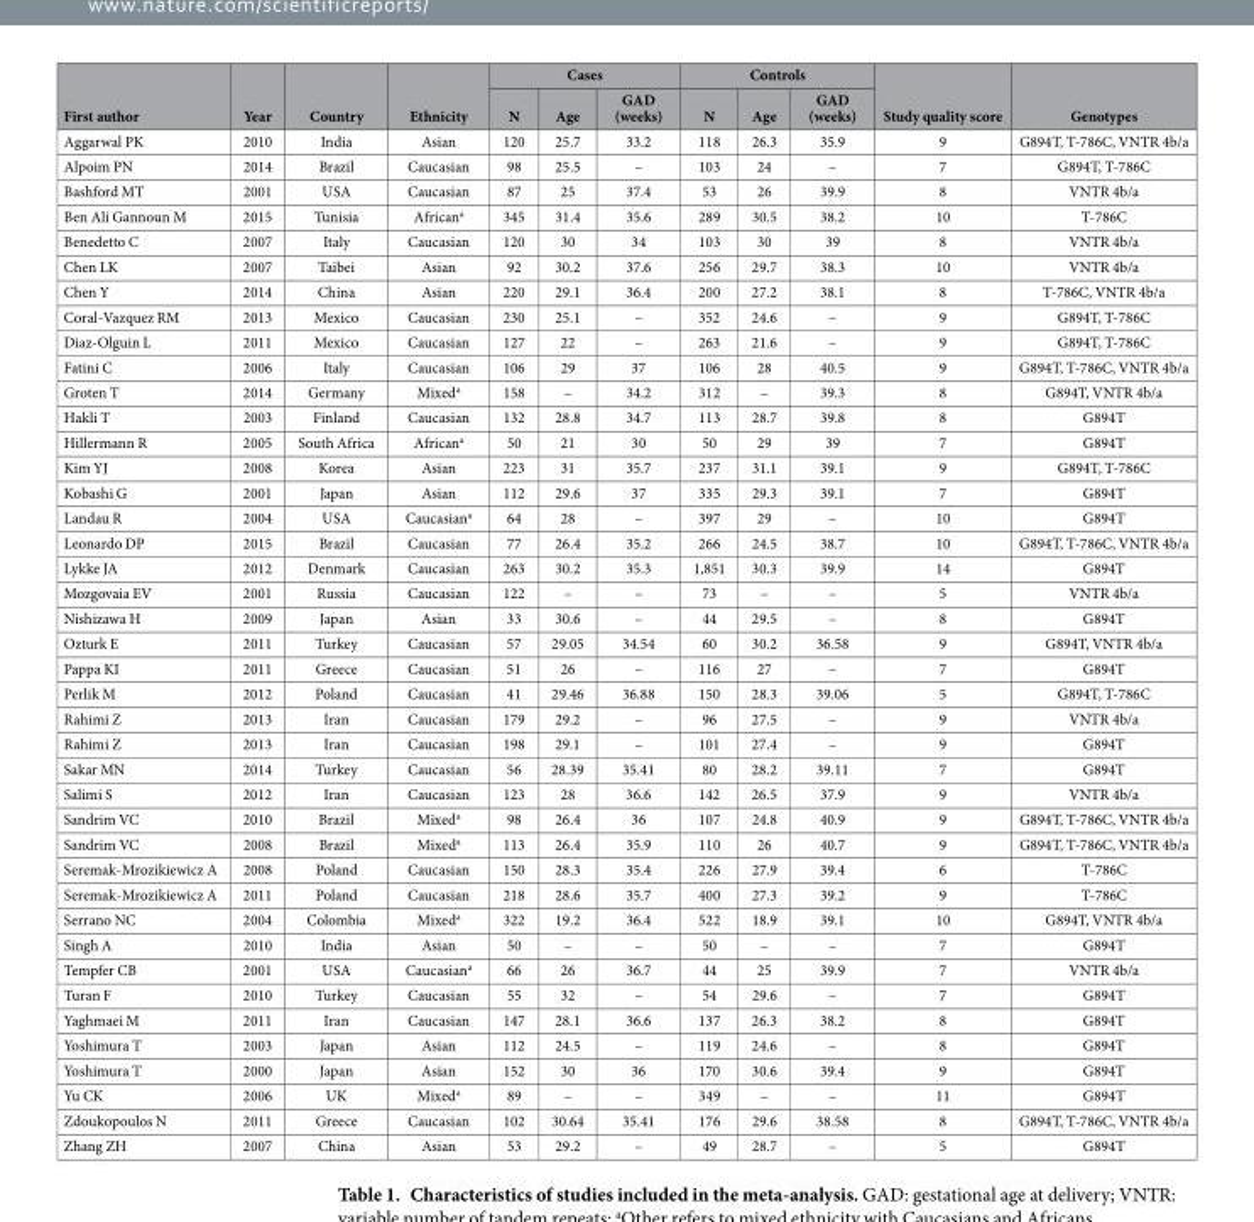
<table><thead><tr><td rowspan="2">First author</td><td rowspan="2">Year</td><td rowspan="2">Country</td><td rowspan="2">Ethnicity</td><td colspan="3">Cases</td><td colspan="3">Controls</td><td rowspan="2">Study quality score</td><td rowspan="2">Genotypes</td></tr><tr><td>N</td><td>Age</td><td>GAD (weeks)</td><td>N</td><td>Age</td><td>GAD (weeks)</td></tr></thead><tbody><tr><td>Aggarwal PK</td><td>2010</td><td>India</td><td>Asian</td><td>120</td><td>25.7</td><td>33.2</td><td>118</td><td>26.3</td><td>35.9</td><td>9</td><td>G894T, T-786C, VNTR 4b/a</td></tr><tr><td>Alpoim PN</td><td>2014</td><td>Brazil</td><td>Caucasian</td><td>98</td><td>25.5</td><td>–</td><td>103</td><td>24</td><td>–</td><td>7</td><td>G894T, T-786C</td></tr><tr><td>Bashford MT</td><td>2001</td><td>USA</td><td>Caucasian</td><td>87</td><td>25</td><td>37.4</td><td>53</td><td>26</td><td>39.9</td><td>8</td><td>VNTR 4b/a</td></tr><tr><td>Ben Ali Gannoun M</td><td>2015</td><td>Tunisia</td><td>African<sup>a</sup></td><td>345</td><td>31.4</td><td>35.6</td><td>289</td><td>30.5</td><td>38.2</td><td>10</td><td>T-786C</td></tr><tr><td>Benedetto C</td><td>2007</td><td>Italy</td><td>Caucasian</td><td>120</td><td>30</td><td>34</td><td>103</td><td>30</td><td>39</td><td>8</td><td>VNTR 4b/a</td></tr><tr><td>Chen LK</td><td>2007</td><td>Taibei</td><td>Asian</td><td>92</td><td>30.2</td><td>37.6</td><td>256</td><td>29.7</td><td>38.3</td><td>10</td><td>VNTR 4b/a</td></tr><tr><td>Chen Y</td><td>2014</td><td>China</td><td>Asian</td><td>220</td><td>29.1</td><td>36.4</td><td>200</td><td>27.2</td><td>38.1</td><td>8</td><td>T-786C, VNTR 4b/a</td></tr><tr><td>Coral-Vazquez RM</td><td>2013</td><td>Mexico</td><td>Caucasian</td><td>230</td><td>25.1</td><td>–</td><td>352</td><td>24.6</td><td>–</td><td>9</td><td>G894T, T-786C</td></tr><tr><td>Diaz-Olguin L</td><td>2011</td><td>Mexico</td><td>Caucasian</td><td>127</td><td>22</td><td>–</td><td>263</td><td>21.6</td><td>–</td><td>9</td><td>G894T, T-786C</td></tr><tr><td>Fatini C</td><td>2006</td><td>Italy</td><td>Caucasian</td><td>106</td><td>29</td><td>37</td><td>106</td><td>28</td><td>40.5</td><td>9</td><td>G894T, T-786C, VNTR 4b/a</td></tr><tr><td>Groten T</td><td>2014</td><td>Germany</td><td>Mixed<sup>a</sup></td><td>158</td><td>–</td><td>34.2</td><td>312</td><td>–</td><td>39.3</td><td>8</td><td>G894T, VNTR 4b/a</td></tr><tr><td>Hakli T</td><td>2003</td><td>Finland</td><td>Caucasian</td><td>132</td><td>28.8</td><td>34.7</td><td>113</td><td>28.7</td><td>39.8</td><td>8</td><td>G894T</td></tr><tr><td>Hillermann R</td><td>2005</td><td>South Africa</td><td>African<sup>a</sup></td><td>50</td><td>21</td><td>30</td><td>50</td><td>29</td><td>39</td><td>7</td><td>G894T</td></tr><tr><td>Kim YJ</td><td>2008</td><td>Korea</td><td>Asian</td><td>223</td><td>31</td><td>35.7</td><td>237</td><td>31.1</td><td>39.1</td><td>9</td><td>G894T, T-786C</td></tr><tr><td>Kobashi G</td><td>2001</td><td>Japan</td><td>Asian</td><td>112</td><td>29.6</td><td>37</td><td>335</td><td>29.3</td><td>39.1</td><td>7</td><td>G894T</td></tr><tr><td>Landau R</td><td>2004</td><td>USA</td><td>Caucasian<sup>a</sup></td><td>64</td><td>28</td><td>–</td><td>397</td><td>29</td><td>–</td><td>10</td><td>G894T</td></tr><tr><td>Leonardo DP</td><td>2015</td><td>Brazil</td><td>Caucasian</td><td>77</td><td>26.4</td><td>35.2</td><td>266</td><td>24.5</td><td>38.7</td><td>10</td><td>G894T, T-786C, VNTR 4b/a</td></tr><tr><td>Lykke JA</td><td>2012</td><td>Denmark</td><td>Caucasian</td><td>263</td><td>30.2</td><td>35.3</td><td>1,851</td><td>30.3</td><td>39.9</td><td>14</td><td>G894T</td></tr><tr><td>Mozgovaia EV</td><td>2001</td><td>Russia</td><td>Caucasian</td><td>122</td><td>–</td><td>–</td><td>73</td><td>–</td><td>–</td><td>5</td><td>VNTR 4b/a</td></tr><tr><td>Nishizawa H</td><td>2009</td><td>Japan</td><td>Asian</td><td>33</td><td>30.6</td><td>–</td><td>44</td><td>29.5</td><td>–</td><td>8</td><td>G894T</td></tr><tr><td>Ozturk E</td><td>2011</td><td>Turkey</td><td>Caucasian</td><td>57</td><td>29.05</td><td>34.54</td><td>60</td><td>30.2</td><td>36.58</td><td>9</td><td>G894T, VNTR 4b/a</td></tr><tr><td>Pappa KI</td><td>2011</td><td>Greece</td><td>Caucasian</td><td>51</td><td>26</td><td>–</td><td>116</td><td>27</td><td>–</td><td>7</td><td>G894T</td></tr><tr><td>Perlik M</td><td>2012</td><td>Poland</td><td>Caucasian</td><td>41</td><td>29.46</td><td>36.88</td><td>150</td><td>28.3</td><td>39.06</td><td>5</td><td>G894T, T-786C</td></tr><tr><td>Rahimi Z</td><td>2013</td><td>Iran</td><td>Caucasian</td><td>179</td><td>29.2</td><td>–</td><td>96</td><td>27.5</td><td>–</td><td>9</td><td>VNTR 4b/a</td></tr><tr><td>Rahimi Z</td><td>2013</td><td>Iran</td><td>Caucasian</td><td>198</td><td>29.1</td><td>–</td><td>101</td><td>27.4</td><td>–</td><td>9</td><td>G894T</td></tr><tr><td>Sakar MN</td><td>2014</td><td>Turkey</td><td>Caucasian</td><td>56</td><td>28.39</td><td>35.41</td><td>80</td><td>28.2</td><td>39.11</td><td>7</td><td>G894T</td></tr><tr><td>Salimi S</td><td>2012</td><td>Iran</td><td>Caucasian</td><td>123</td><td>28</td><td>36.6</td><td>142</td><td>26.5</td><td>37.9</td><td>9</td><td>VNTR 4b/a</td></tr><tr><td>Sandrim VC</td><td>2010</td><td>Brazil</td><td>Mixed<sup>a</sup></td><td>98</td><td>26.4</td><td>36</td><td>107</td><td>24.8</td><td>40.9</td><td>9</td><td>G894T, T-786C, VNTR 4b/a</td></tr><tr><td>Sandrim VC</td><td>2008</td><td>Brazil</td><td>Mixed<sup>a</sup></td><td>113</td><td>26.4</td><td>35.9</td><td>110</td><td>26</td><td>40.7</td><td>9</td><td>G894T, T-786C, VNTR 4b/a</td></tr><tr><td>Seremak-Mrozikiewicz A</td><td>2008</td><td>Poland</td><td>Caucasian</td><td>150</td><td>28.3</td><td>35.4</td><td>226</td><td>27.9</td><td>39.4</td><td>6</td><td>T-786C</td></tr><tr><td>Seremak-Mrozikiewicz A</td><td>2011</td><td>Poland</td><td>Caucasian</td><td>218</td><td>28.6</td><td>35.7</td><td>400</td><td>27.3</td><td>39.2</td><td>9</td><td>T-786C</td></tr><tr><td>Serrano NC</td><td>2004</td><td>Colombia</td><td>Mixed<sup>a</sup></td><td>322</td><td>19.2</td><td>36.4</td><td>522</td><td>18.9</td><td>39.1</td><td>10</td><td>G894T, VNTR 4b/a</td></tr><tr><td>Singh A</td><td>2010</td><td>India</td><td>Asian</td><td>50</td><td>–</td><td>–</td><td>50</td><td>–</td><td>–</td><td>7</td><td>G894T</td></tr><tr><td>Tempfer CB</td><td>2001</td><td>USA</td><td>Caucasian<sup>a</sup></td><td>66</td><td>26</td><td>36.7</td><td>44</td><td>25</td><td>39.9</td><td>7</td><td>VNTR 4b/a</td></tr><tr><td>Turan F</td><td>2010</td><td>Turkey</td><td>Caucasian</td><td>55</td><td>32</td><td>–</td><td>54</td><td>29.6</td><td>–</td><td>7</td><td>G894T</td></tr><tr><td>Yaghmaei M</td><td>2011</td><td>Iran</td><td>Caucasian</td><td>147</td><td>28.1</td><td>36.6</td><td>137</td><td>26.3</td><td>38.2</td><td>8</td><td>G894T</td></tr><tr><td>Yoshimura T</td><td>2003</td><td>Japan</td><td>Asian</td><td>112</td><td>24.5</td><td>–</td><td>119</td><td>24.6</td><td>–</td><td>8</td><td>G894T</td></tr><tr><td>Yoshimura T</td><td>2000</td><td>Japan</td><td>Asian</td><td>152</td><td>30</td><td>36</td><td>170</td><td>30.6</td><td>39.4</td><td>9</td><td>G894T</td></tr><tr><td>Yu CK</td><td>2006</td><td>UK</td><td>Mixed<sup>a</sup></td><td>89</td><td>–</td><td>–</td><td>349</td><td>–</td><td>–</td><td>11</td><td>G894T</td></tr><tr><td>Zdoukopoulos N</td><td>2011</td><td>Greece</td><td>Caucasian</td><td>102</td><td>30.64</td><td>35.41</td><td>176</td><td>29.6</td><td>38.58</td><td>8</td><td>G894T, T-786C, VNTR 4b/a</td></tr><tr><td>Zhang ZH</td><td>2007</td><td>China</td><td>Asian</td><td>53</td><td>29.2</td><td>–</td><td>49</td><td>28.7</td><td>–</td><td>5</td><td>G894T</td></tr></tbody></table>